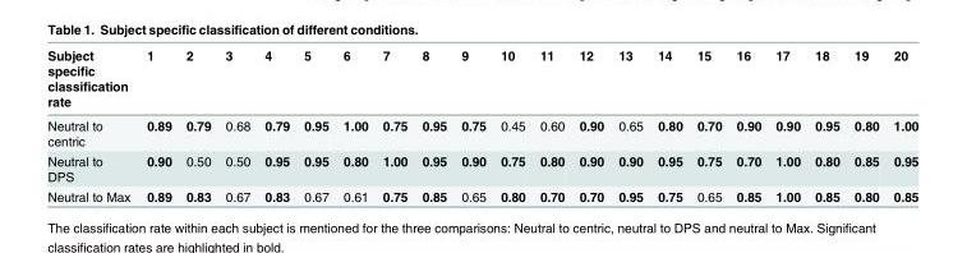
<table><thead><tr><td>Subject specific classification rate</td><td>1</td><td>2</td><td>3</td><td>4</td><td>5</td><td>6</td><td>7</td><td>8</td><td>9</td><td>10</td><td>11</td><td>12</td><td>13</td><td>14</td><td>15</td><td>16</td><td>17</td><td>18</td><td>19</td><td>20</td></tr></thead><tbody><tr><td>Neutral to centric</td><td>0.89</td><td>0.79</td><td>0.68</td><td>0.79</td><td>0.95</td><td>1.00</td><td>0.75</td><td>0.95</td><td>0.75</td><td>0.45</td><td>0.60</td><td>0.90</td><td>0.65</td><td>0.80</td><td>0.70</td><td>0.90</td><td>0.90</td><td>0.95</td><td>0.80</td><td>1.00</td></tr><tr><td>Neutral to DPS</td><td>0.90</td><td>0.50</td><td>0.50</td><td>0.95</td><td>0.95</td><td>0.80</td><td>1.00</td><td>0.95</td><td>0.90</td><td>0.75</td><td>0.80</td><td>0.90</td><td>0.90</td><td>0.95</td><td>0.75</td><td>0.70</td><td>1.00</td><td>0.80</td><td>0.85</td><td>0.95</td></tr><tr><td>Neutral to Max</td><td>0.89</td><td>0.83</td><td>0.67</td><td>0.83</td><td>0.67</td><td>0.61</td><td>0.75</td><td>0.85</td><td>0.65</td><td>0.80</td><td>0.70</td><td>0.70</td><td>0.95</td><td>0.75</td><td>0.65</td><td>0.85</td><td>1.00</td><td>0.85</td><td>0.80</td><td>0.85</td></tr></tbody></table>